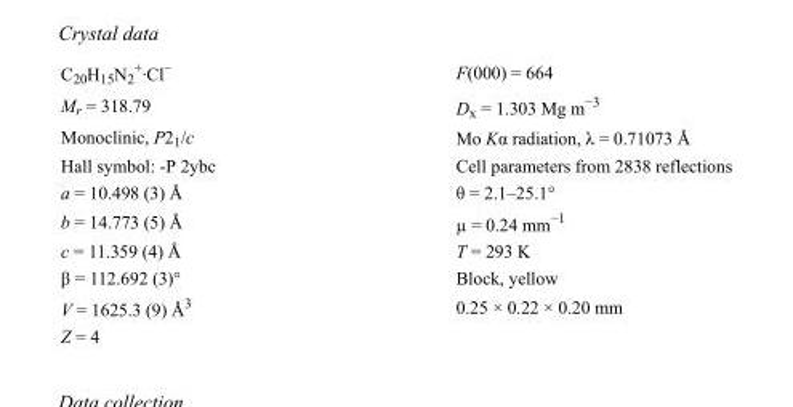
<table><tbody><tr><td>C<sub>20</sub>H<sub>15</sub>N<sub>2</sub> <sup>+</sup>·Cl<sup>−</sup></td><td>F(000) = 664</td></tr><tr><td>M<sub>r</sub> = 318.79</td><td>D<sub>x</sub> = 1.303 Mg m<sup>−3</sup></td></tr><tr><td>Monoclinic, P2<sub>1</sub>/c</td><td>Mo Kα radiation, λ = 0.71073 Å</td></tr><tr><td>Hall symbol: -P 2ybc</td><td>Cell parameters from 2838 reflections</td></tr><tr><td>a = 10.498 (3) Å</td><td>θ = 2.1–25.1°</td></tr><tr><td>b = 14.773 (5) Å</td><td>µ = 0.24 mm<sup>−1</sup></td></tr><tr><td>c = 11.359 (4) Å</td><td>T = 293 K</td></tr><tr><td>β = 112.692 (3)°</td><td>Block, yellow</td></tr><tr><td>V = 1625.3 (9) Å<sup>3</sup></td><td>0.25 × 0.22 × 0.20 mm</td></tr><tr><td>Z = 4</td><td></td></tr></tbody></table>